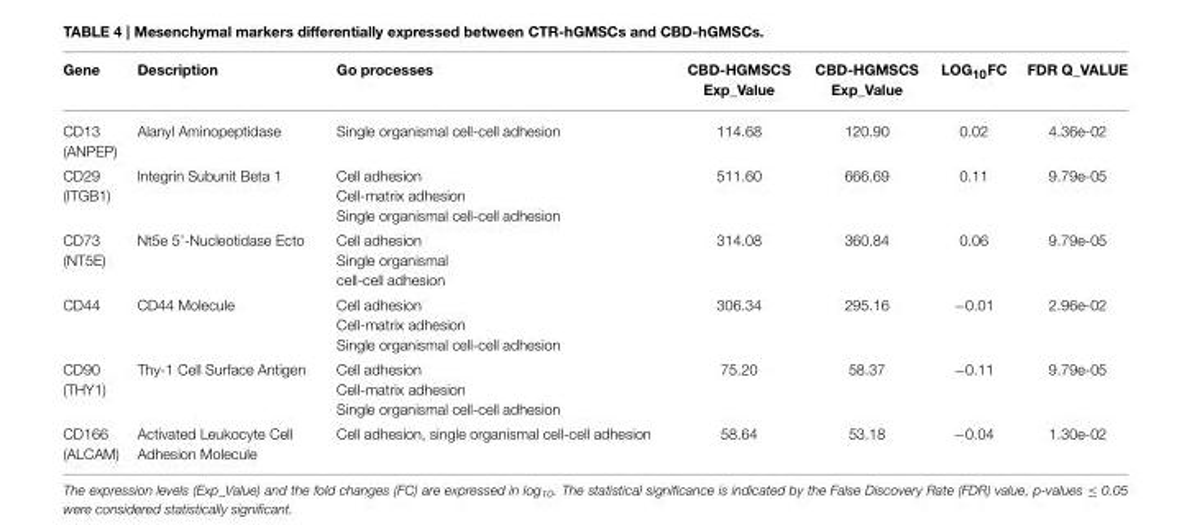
<table><thead><tr><td>Gene</td><td>Description</td><td>Go processes</td><td>CBD-HGMSCS Exp_Value</td><td>CBD-HGMSCS Exp_Value</td><td>LOG<sub>10</sub>FC</td><td>FDR Q_VALUE</td></tr></thead><tbody><tr><td>CD13 (ANPEP)</td><td>Alanyl Aminopeptidase</td><td>Single organismal cell-cell adhesion</td><td>114.68</td><td>120.90</td><td>0.02</td><td>4.36e-02</td></tr><tr><td>CD29 (ITGB1)</td><td>Integrin Subunit Beta 1</td><td>Cell adhesion Cell-matrix adhesion Single organismal cell-cell adhesion</td><td>511.60</td><td>666.69</td><td>0.11</td><td>9.79e-05</td></tr><tr><td>CD73 (NT5E)</td><td>Nt5e 5’-Nucleotidase Ecto</td><td>Cell adhesion Single organismal cell-cell adhesion</td><td>314.08</td><td>360.84</td><td>0.06</td><td>9.79e-05</td></tr><tr><td>CD44</td><td>CD44 Molecule</td><td>Cell adhesion Cell-matrix adhesion Single organismal cell-cell adhesion</td><td>306.34</td><td>295.16</td><td>−0.01</td><td>2.96e-02</td></tr><tr><td>CD90 (THY1)</td><td>Thy-1 Cell Surface Antigen</td><td>Cell adhesion Cell-matrix adhesion Single organismal cell-cell adhesion</td><td>75.20</td><td>58.37</td><td>−0.11</td><td>9.79e-05</td></tr><tr><td>CD166 (ALCAM)</td><td>Activated Leukocyte Cell Adhesion Molecule</td><td>Cell adhesion, single organismal cell-cell adhesion</td><td>58.64</td><td>53.18</td><td>−0.04</td><td>1.30e-02</td></tr></tbody></table>